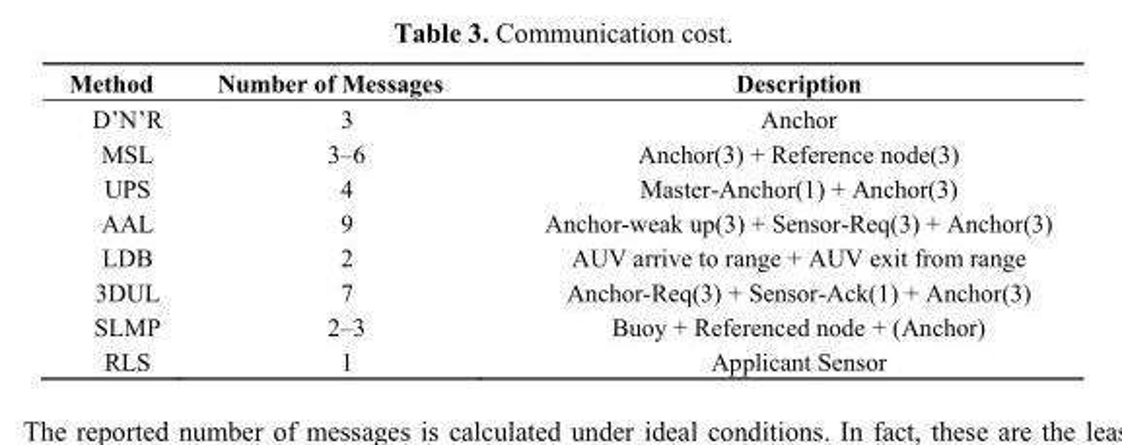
<table><thead><tr><td>Method</td><td>Number of Messages</td><td>Description</td></tr></thead><tbody><tr><td>D’N’R</td><td>3</td><td>Anchor</td></tr><tr><td>MSL</td><td>3–6</td><td>Anchor(3) + Reference node(3)</td></tr><tr><td>UPS</td><td>4</td><td>Master-Anchor(1) + Anchor(3)</td></tr><tr><td>AAL</td><td>9</td><td>Anchor-weak up(3) + Sensor-Req(3) + Anchor(3)</td></tr><tr><td>LDB</td><td>2</td><td>AUV arrive to range + AUV exit from range</td></tr><tr><td>3DUL</td><td>7</td><td>Anchor-Req(3) + Sensor-Ack(1) + Anchor(3)</td></tr><tr><td>SLMP</td><td>2–3</td><td>Buoy + Referenced node + (Anchor)</td></tr><tr><td>RLS</td><td>1</td><td>Applicant Sensor</td></tr></tbody></table>